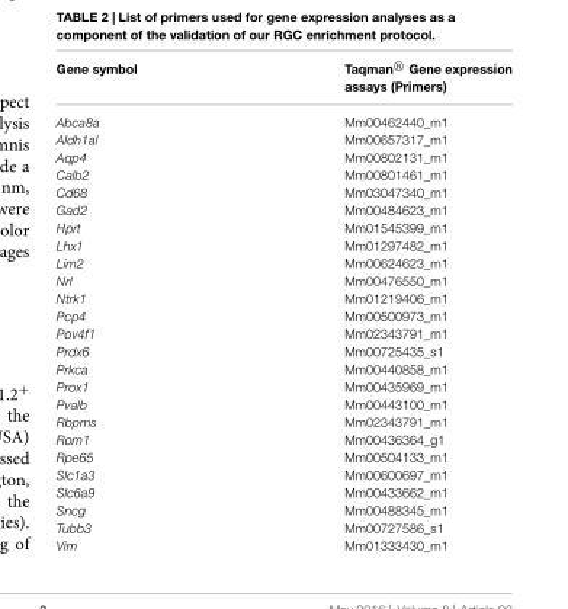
<table><thead><tr><td>Gene symbol</td><td>Taqman<sup>®</sup> Gene expression assays (Primers)</td></tr></thead><tbody><tr><td>Abca8a</td><td>Mm00462440_m1</td></tr><tr><td>Aldh1al</td><td>Mm00657317_m1</td></tr><tr><td>Aqp4</td><td>Mm00802131_m1</td></tr><tr><td>Calb2</td><td>Mm00801461_m1</td></tr><tr><td>Cd68</td><td>Mm03047340_m1</td></tr><tr><td>Gad2</td><td>Mm00484623_m1</td></tr><tr><td>Hprt</td><td>Mm01545399_m1</td></tr><tr><td>Lhx1</td><td>Mm01297482_m1</td></tr><tr><td>Lim2</td><td>Mm00624623_m1</td></tr><tr><td>Nrl</td><td>Mm00476550_m1</td></tr><tr><td>Ntrk1</td><td>Mm01219406_m1</td></tr><tr><td>Pcp4</td><td>Mm00500973_m1</td></tr><tr><td>Pov4f1</td><td>Mm02343791_m1</td></tr><tr><td>Prdx6</td><td>Mm00725435_s1</td></tr><tr><td>Prkca</td><td>Mm00440858_m1</td></tr><tr><td>Prox1</td><td>Mm00435969_m1</td></tr><tr><td>Pvalb</td><td>Mm00443100_m1</td></tr><tr><td>Rbpms</td><td>Mm02343791_m1</td></tr><tr><td>Rom1</td><td>Mm00436364_g1</td></tr><tr><td>Rpe65</td><td>Mm00504133_m1</td></tr><tr><td>Slc1a3</td><td>Mm00600697_m1</td></tr><tr><td>Slc6a9</td><td>Mm00433662_m1</td></tr><tr><td>Sncg</td><td>Mm00488345_m1</td></tr><tr><td>Tubb3</td><td>Mm00727586_s1</td></tr><tr><td>Vim</td><td>Mm01333430_m1</td></tr></tbody></table>